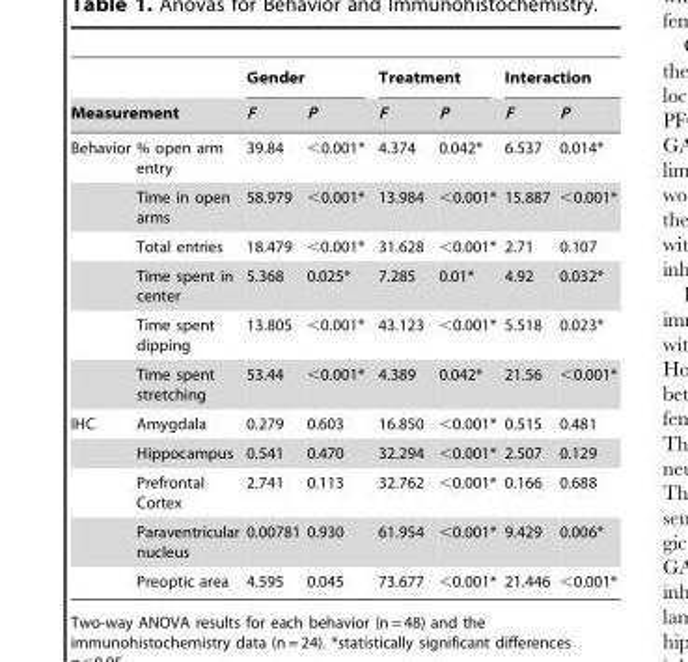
<table><thead><tr><td></td><td></td><td colspan="2">Gender</td><td colspan="2">Treatment</td><td colspan="2">Interaction</td></tr><tr><td colspan="2">Measurement</td><td>F</td><td>P</td><td>F</td><td>P</td><td>F</td><td>P</td></tr></thead><tbody><tr><td rowspan="6">Behavior</td><td>% open arm entry</td><td>39.84</td><td>&lt;0.001*</td><td>4.374</td><td>0.042*</td><td>6.537</td><td>0.014*</td></tr><tr><td>Time in open arms</td><td>58.979</td><td>&lt;0.001*</td><td>13.984</td><td>&lt;0.001*</td><td>15.887</td><td>&lt;0.001*</td></tr><tr><td>Total entries</td><td>18.479</td><td>&lt;0.001*</td><td>31.628</td><td>&lt;0.001*</td><td>2.71</td><td>0.107</td></tr><tr><td>Time spent in center</td><td>5.368</td><td>0.025*</td><td>7.285</td><td>0.01*</td><td>4.92</td><td>0.032*</td></tr><tr><td>Time spent dipping</td><td>13.805</td><td>&lt;0.001*</td><td>43.123</td><td>&lt;0.001*</td><td>5.518</td><td>0.023*</td></tr><tr><td>Time spent stretching</td><td>53.44</td><td>&lt;0.001*</td><td>4.389</td><td>0.042*</td><td>21.56</td><td>&lt;0.001*</td></tr><tr><td rowspan="5">IHC</td><td>Amygdala</td><td>0.279</td><td>0.603</td><td>16.850</td><td>&lt;0.001*</td><td>0.515</td><td>0.481</td></tr><tr><td>Hippocampus</td><td>0.541</td><td>0.470</td><td>32.294</td><td>&lt;0.001*</td><td>2.507</td><td>0.129</td></tr><tr><td>Prefrontal Cortex</td><td>2.741</td><td>0.113</td><td>32.762</td><td>&lt;0.001*</td><td>0.166</td><td>0.688</td></tr><tr><td>Paraventricular nucleus</td><td>0.00781</td><td>0.930</td><td>61.954</td><td>&lt;0.001*</td><td>9.429</td><td>0.006*</td></tr><tr><td>Preoptic area</td><td>4.595</td><td>0.045</td><td>73.677</td><td>&lt;0.001*</td><td>21.446</td><td>&lt;0.001*</td></tr></tbody></table>